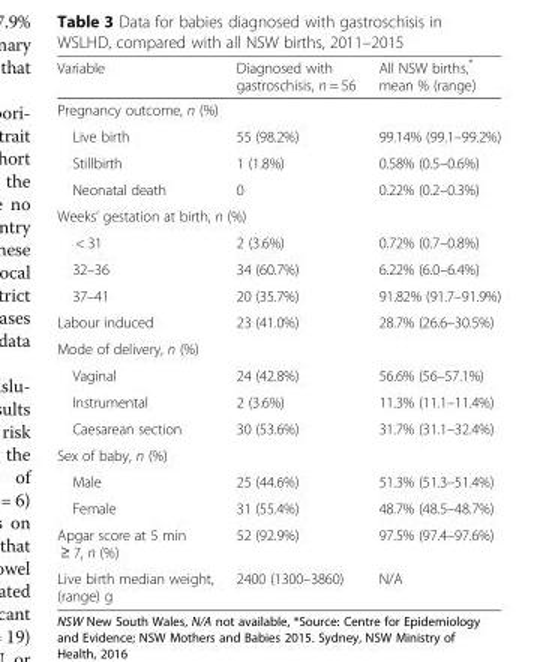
<table><thead><tr><td>Variable</td><td>Diagnosed with gastroschisis, n = 56</td><td>All NSW births,* mean % (range)</td></tr></thead><tbody><tr><td colspan="3">Pregnancy outcome, n (%)</td></tr><tr><td>Live birth</td><td>55 (98.2%)</td><td>99.14% (99.1–99.2%)</td></tr><tr><td>Stillbirth</td><td>1 (1.8%)</td><td>0.58% (0.5–0.6%)</td></tr><tr><td>Neonatal death</td><td>0</td><td>0.22% (0.2–0.3%)</td></tr><tr><td colspan="3">Weeks’ gestation at birth, n (%)</td></tr><tr><td>&lt; 31</td><td>2 (3.6%)</td><td>0.72% (0.7–0.8%)</td></tr><tr><td>32–36</td><td>34 (60.7%)</td><td>6.22% (6.0–6.4%)</td></tr><tr><td>37–41</td><td>20 (35.7%)</td><td>91.82% (91.7–91.9%)</td></tr><tr><td>Labour induced</td><td>23 (41.0%)</td><td>28.7% (26.6–30.5%)</td></tr><tr><td colspan="3">Mode of delivery, n (%)</td></tr><tr><td>Vaginal</td><td>24 (42.8%)</td><td>56.6% (56–57.1%)</td></tr><tr><td>Instrumental</td><td>2 (3.6%)</td><td>11.3% (11.1–11.4%)</td></tr><tr><td>Caesarean section</td><td>30 (53.6%)</td><td>31.7% (31.1–32.4%)</td></tr><tr><td colspan="3">Sex of baby, n (%)</td></tr><tr><td>Male</td><td>25 (44.6%)</td><td>51.3% (51.3–51.4%)</td></tr><tr><td>Female</td><td>31 (55.4%)</td><td>48.7% (48.5–48.7%)</td></tr><tr><td>Apgar score at 5 min ≥ 7, n (%)</td><td>52 (92.9%)</td><td>97.5% (97.4–97.6%)</td></tr><tr><td>Live birth median weight, (range) g</td><td>2400 (1300–3860)</td><td>N/A</td></tr></tbody></table>